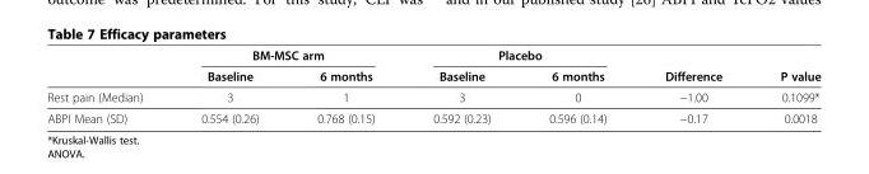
<table><thead><tr><td rowspan="2"></td><td colspan="2">BM-MSC arm</td><td colspan="2">Placebo</td><td rowspan="2">Difference</td><td rowspan="2">P value</td></tr><tr><td>Baseline</td><td>6 months</td><td>Baseline</td><td>6 months</td></tr></thead><tbody><tr><td>Rest pain (Median)</td><td>3</td><td>1</td><td>3</td><td>0</td><td>−1.00</td><td>0.1099*</td></tr><tr><td>ABPI Mean (SD)</td><td>0.554 (0.26)</td><td>0.768 (0.15)</td><td>0.592 (0.23)</td><td>0.596 (0.14)</td><td>−0.17</td><td>0.0018</td></tr></tbody></table>